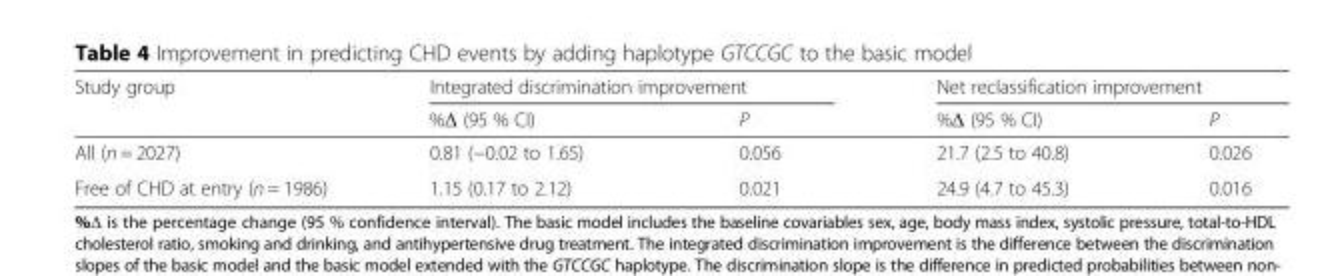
<table><thead><tr><td rowspan="2">Study group</td><td colspan="2">Integrated discrimination improvement</td><td colspan="2">Net reclassification improvement</td></tr><tr><td>%Δ (95 % CI)</td><td>P</td><td>%Δ (95 % CI)</td><td>P</td></tr></thead><tbody><tr><td>All (n = 2027)</td><td>0.81 (−0.02 to 1.65)</td><td>0.056</td><td>21.7 (2.5 to 40.8)</td><td>0.026</td></tr><tr><td>Free of CHD at entry (n = 1986)</td><td>1.15 (0.17 to 2.12)</td><td>0.021</td><td>24.9 (4.7 to 45.3)</td><td>0.016</td></tr></tbody></table>